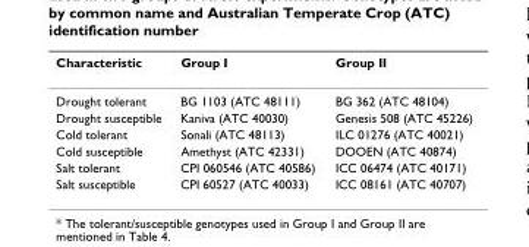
<table><thead><tr><td>Characteristic</td><td>Group I</td><td>Group II</td></tr></thead><tbody><tr><td>Drought tolerant</td><td>BG 1103 (ATC 48111)</td><td>BG 362 (ATC 48104)</td></tr><tr><td>Drought susceptible</td><td>Kaniva (ATC 40030)</td><td>Genesis 508 (ATC 45226)</td></tr><tr><td>Cold tolerant</td><td>Sonali (ATC 48113)</td><td>ILC 01276 (ATC 40021)</td></tr><tr><td>Cold susceptible</td><td>Amethyst (ATC 42331)</td><td>DOOEN (ATC 40874)</td></tr><tr><td>Salt tolerant</td><td>CPI 060546 (ATC 40586)</td><td>ICC 06474 (ATC 40171)</td></tr><tr><td>Salt susceptible</td><td>CPI 60527 (ATC 40033)</td><td>ICC 08161 (ATC 40707)</td></tr></tbody></table>